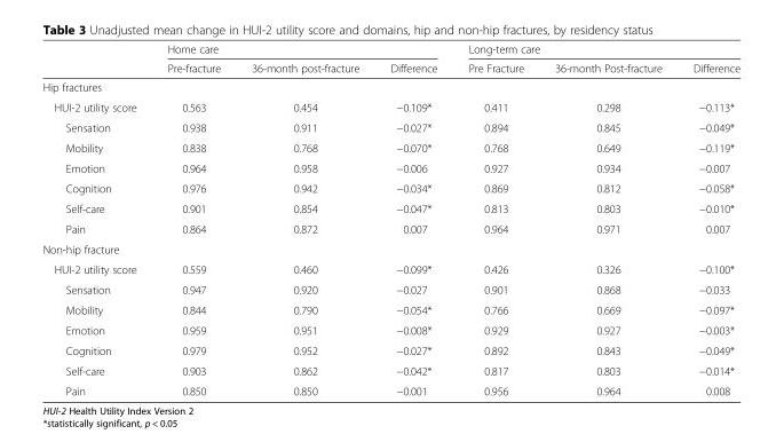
<table><thead><tr><td rowspan="2"></td><td colspan="3">Home care</td><td colspan="3">Long-term care</td></tr><tr><td>Pre-fracture</td><td>36-month post-fracture</td><td>Difference</td><td>Pre Fracture</td><td>36-month Post-fracture</td><td>Difference</td></tr></thead><tbody><tr><td colspan="7">Hip fractures</td></tr><tr><td>HUI-2 utility score</td><td>0.563</td><td>0.454</td><td>−0.109*</td><td>0.411</td><td>0.298</td><td>−0.113*</td></tr><tr><td>Sensation</td><td>0.938</td><td>0.911</td><td>−0.027*</td><td>0.894</td><td>0.845</td><td>−0.049*</td></tr><tr><td>Mobility</td><td>0.838</td><td>0.768</td><td>−0.070*</td><td>0.768</td><td>0.649</td><td>−0.119*</td></tr><tr><td>Emotion</td><td>0.964</td><td>0.958</td><td>−0.006</td><td>0.927</td><td>0.934</td><td>−0.007</td></tr><tr><td>Cognition</td><td>0.976</td><td>0.942</td><td>−0.034*</td><td>0.869</td><td>0.812</td><td>−0.058*</td></tr><tr><td>Self-care</td><td>0.901</td><td>0.854</td><td>−0.047*</td><td>0.813</td><td>0.803</td><td>−0.010*</td></tr><tr><td>Pain</td><td>0.864</td><td>0.872</td><td>0.007</td><td>0.964</td><td>0.971</td><td>0.007</td></tr><tr><td colspan="7">Non-hip fracture</td></tr><tr><td>HUI-2 utility score</td><td>0.559</td><td>0.460</td><td>−0.099*</td><td>0.426</td><td>0.326</td><td>−0.100*</td></tr><tr><td>Sensation</td><td>0.947</td><td>0.920</td><td>−0.027</td><td>0.901</td><td>0.868</td><td>−0.033</td></tr><tr><td>Mobility</td><td>0.844</td><td>0.790</td><td>−0.054*</td><td>0.766</td><td>0.669</td><td>−0.097*</td></tr><tr><td>Emotion</td><td>0.959</td><td>0.951</td><td>−0.008*</td><td>0.929</td><td>0.927</td><td>−0.003*</td></tr><tr><td>Cognition</td><td>0.979</td><td>0.952</td><td>−0.027*</td><td>0.892</td><td>0.843</td><td>−0.049*</td></tr><tr><td>Self-care</td><td>0.903</td><td>0.862</td><td>−0.042*</td><td>0.817</td><td>0.803</td><td>−0.014*</td></tr><tr><td>Pain</td><td>0.850</td><td>0.850</td><td>−0.001</td><td>0.956</td><td>0.964</td><td>0.008</td></tr></tbody></table>